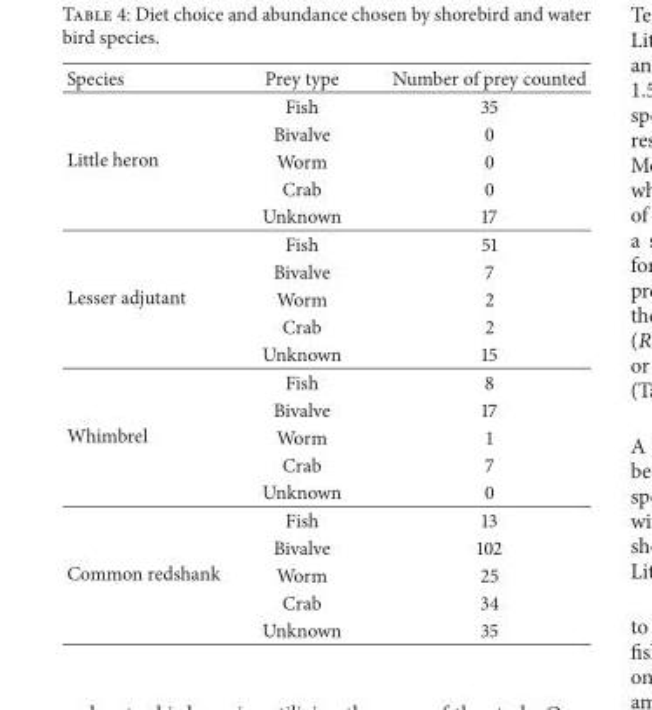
<table><thead><tr><td>Species</td><td>Prey type</td><td>Number of prey counted</td></tr></thead><tbody><tr><td rowspan="5">Little heron</td><td>Fish</td><td>35</td></tr><tr><td>Bivalve</td><td>0</td></tr><tr><td>Worm</td><td>0</td></tr><tr><td>Crab</td><td>0</td></tr><tr><td>Unknown</td><td>17</td></tr><tr><td rowspan="5">Lesser adjutant</td><td>Fish</td><td>51</td></tr><tr><td>Bivalve</td><td>7</td></tr><tr><td>Worm</td><td>2</td></tr><tr><td>Crab</td><td>2</td></tr><tr><td>Unknown</td><td>15</td></tr><tr><td rowspan="5">Whimbrel</td><td>Fish</td><td>8</td></tr><tr><td>Bivalve</td><td>17</td></tr><tr><td>Worm</td><td>1</td></tr><tr><td>Crab</td><td>7</td></tr><tr><td>Unknown</td><td>0</td></tr><tr><td rowspan="5">Common redshank</td><td>Fish</td><td>13</td></tr><tr><td>Bivalve</td><td>102</td></tr><tr><td>Worm</td><td>25</td></tr><tr><td>Crab</td><td>34</td></tr><tr><td>Unknown</td><td>35</td></tr></tbody></table>